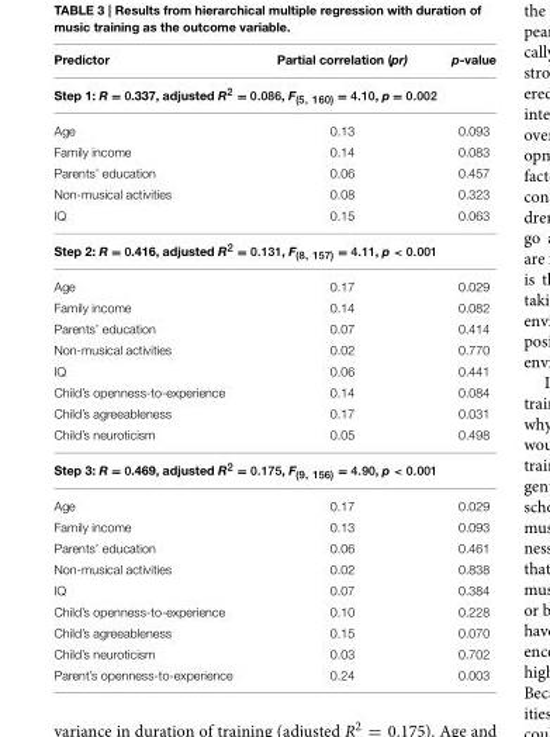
<table><thead><tr><td>Predictor</td><td>Partial correlation (pr)</td><td>p-value</td></tr></thead><tbody><tr><td colspan="3">Step 1: R = 0.337, adjusted R<sup>2</sup> = 0.086, F<sub>(5, 160</sub>) = 4.10, p = 0.002</td></tr><tr><td>Age</td><td>0.13</td><td>0.093</td></tr><tr><td>Family income</td><td>0.14</td><td>0.083</td></tr><tr><td>Parents’ education</td><td>0.06</td><td>0.457</td></tr><tr><td>Non-musical activities</td><td>0.08</td><td>0.323</td></tr><tr><td>IQ</td><td>0.15</td><td>0.063</td></tr><tr><td colspan="3">Step 2: R = 0.416, adjusted R<sup>2</sup> = 0.131, F<sub>(8, 157)</sub> = 4.11, p &lt; 0.001</td></tr><tr><td>Age</td><td>0.17</td><td>0.029</td></tr><tr><td>Family income</td><td>0.14</td><td>0.082</td></tr><tr><td>Parents’ education</td><td>0.07</td><td>0.414</td></tr><tr><td>Non-musical activities</td><td>0.02</td><td>0.770</td></tr><tr><td>IQ</td><td>0.06</td><td>0.441</td></tr><tr><td>Child’s openness-to-experience</td><td>0.14</td><td>0.084</td></tr><tr><td>Child’s agreeableness</td><td>0.17</td><td>0.031</td></tr><tr><td>Child’s neuroticism</td><td>0.05</td><td>0.498</td></tr><tr><td colspan="3">Step 3: R = 0.469, adjusted R<sup>2</sup> = 0.175, F<sub>(9, 156)</sub> = 4.90, p &lt; 0.001</td></tr><tr><td>Age</td><td>0.17</td><td>0.029</td></tr><tr><td>Family income</td><td>0.13</td><td>0.093</td></tr><tr><td>Parents’ education</td><td>0.06</td><td>0.461</td></tr><tr><td>Non-musical activities</td><td>0.02</td><td>0.838</td></tr><tr><td>IQ</td><td>0.07</td><td>0.384</td></tr><tr><td>Child’s openness-to-experience</td><td>0.10</td><td>0.228</td></tr><tr><td>Child’s agreeableness</td><td>0.15</td><td>0.070</td></tr><tr><td>Child’s neuroticism</td><td>0.03</td><td>0.702</td></tr><tr><td>Parent’s openness-to-experience</td><td>0.24</td><td>0.003</td></tr></tbody></table>